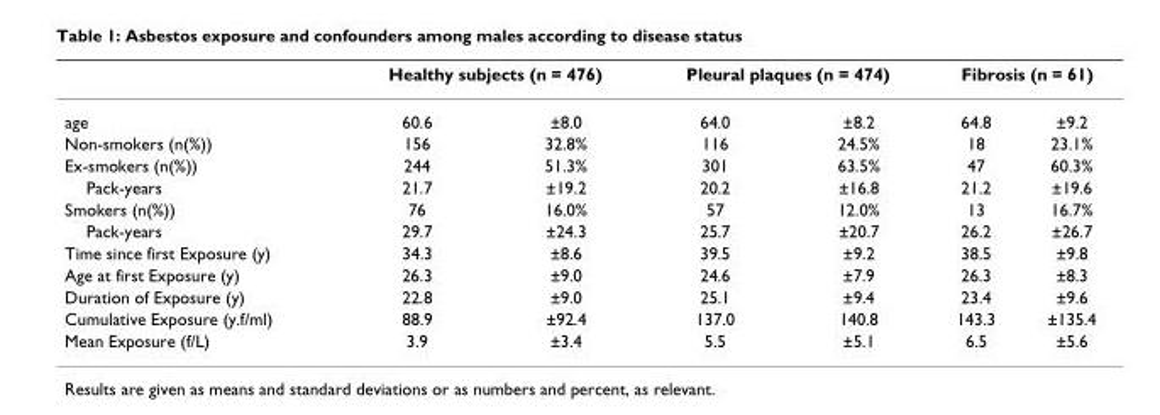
<table><thead><tr><td rowspan="2">age</td><td colspan="2">Healthy subjects (n = 476)</td><td colspan="2">Pleural plaques (n = 474)</td><td colspan="2">Fibrosis (n = 61)</td></tr><tr><td>60.6</td><td>±8.0</td><td>64.0</td><td>±8.2</td><td>64.8</td><td>±9.2</td></tr></thead><tbody><tr><td>Non-smokers (n(%))</td><td>156</td><td>32.8%</td><td>116</td><td>24.5%</td><td>18</td><td>23.1%</td></tr><tr><td>Ex-smokers (n(%))</td><td>244</td><td>51.3%</td><td>301</td><td>63.5%</td><td>47</td><td>60.3%</td></tr><tr><td>Pack-years</td><td>21.7</td><td>±19.2</td><td>20.2</td><td>±16.8</td><td>21.2</td><td>±19.6</td></tr><tr><td>Smokers (n(%))</td><td>76</td><td>16.0%</td><td>57</td><td>12.0%</td><td>13</td><td>16.7%</td></tr><tr><td>Pack-years</td><td>29.7</td><td>±24.3</td><td>25.7</td><td>±20.7</td><td>26.2</td><td>±26.7</td></tr><tr><td>Time since first Exposure (y)</td><td>34.3</td><td>±8.6</td><td>39.5</td><td>±9.2</td><td>38.5</td><td>±9.8</td></tr><tr><td>Age at first Exposure (y)</td><td>26.3</td><td>±9.0</td><td>24.6</td><td>±7.9</td><td>26.3</td><td>±8.3</td></tr><tr><td>Duration of Exposure (y)</td><td>22.8</td><td>±9.0</td><td>25.1</td><td>±9.4</td><td>23.4</td><td>±9.6</td></tr><tr><td>Cumulative Exposure (y.f/ml)</td><td>88.9</td><td>±92.4</td><td>137.0</td><td>140.8</td><td>143.3</td><td>±135.4</td></tr><tr><td>Mean Exposure (f/L)</td><td>3.9</td><td>±3.4</td><td>5.5</td><td>±5.1</td><td>6.5</td><td>±5.6</td></tr></tbody></table>